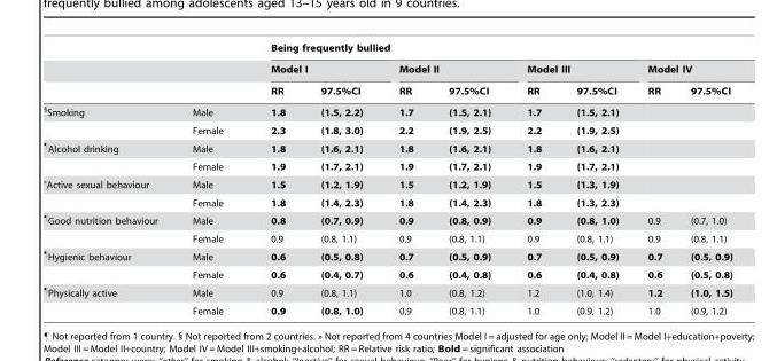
<table><thead><tr><td rowspan="3"></td><td rowspan="3"></td><td colspan="8">Being frequently bullied</td></tr><tr><td colspan="2">Model I</td><td colspan="2">Model II</td><td colspan="2">Model III</td><td colspan="2">Model IV</td></tr><tr><td>RR</td><td>97.5%CI</td><td>RR</td><td>97.5%CI</td><td>RR</td><td>97.5%CI</td><td>RR</td><td>97.5%CI</td></tr></thead><tbody><tr><td rowspan="2"><sup>§</sup>Smoking</td><td>Male</td><td>1.8</td><td>(1.5, 2.2)</td><td>1.7</td><td>(1.5, 2.1)</td><td>1.7</td><td>(1.5, 2.1)</td><td></td><td></td></tr><tr><td>Female</td><td>2.3</td><td>(1.8, 3.0)</td><td>2.2</td><td>(1.9, 2.5)</td><td>2.2</td><td>(1.9, 2.5)</td><td></td><td></td></tr><tr><td rowspan="2"><sup>¶</sup>Alcohol drinking</td><td>Male</td><td>1.8</td><td>(1.6, 2.1)</td><td>1.8</td><td>(1.6, 2.1)</td><td>1.8</td><td>(1.6, 2.1)</td><td></td><td></td></tr><tr><td>Female</td><td>1.9</td><td>(1.7, 2.1)</td><td>1.9</td><td>(1.7, 2.1)</td><td>1.9</td><td>(1.7, 2.1)</td><td></td><td></td></tr><tr><td rowspan="2"><sup>»</sup>Active sexual behaviour</td><td>Male</td><td>1.5</td><td>(1.2, 1.9)</td><td>1.5</td><td>(1.2, 1.9)</td><td>1.5</td><td>(1.3, 1.9)</td><td></td><td></td></tr><tr><td>Female</td><td>1.8</td><td>(1.4, 2.3)</td><td>1.8</td><td>(1.4, 2.3)</td><td>1.8</td><td>(1.3, 2.3)</td><td></td><td></td></tr><tr><td rowspan="2"><sup>¶</sup>Good nutrition behaviour</td><td>Male</td><td>0.8</td><td>(0.7, 0.9)</td><td>0.9</td><td>(0.8, 0.9)</td><td>0.9</td><td>(0.8, 1.0)</td><td>0.9</td><td>(0.7, 1.0)</td></tr><tr><td>Female</td><td>0.9</td><td>(0.8, 1.1)</td><td>0.9</td><td>(0.8, 1.1)</td><td>0.9</td><td>(0.8, 1.1)</td><td>0.9</td><td>(0.8, 1.1)</td></tr><tr><td rowspan="2"><sup>¶</sup>Hygienic behaviour</td><td>Male</td><td>0.6</td><td>(0.5, 0.8)</td><td>0.7</td><td>(0.5, 0.9)</td><td>0.7</td><td>(0.5, 0.9)</td><td>0.7</td><td>(0.5, 0.9)</td></tr><tr><td>Female</td><td>0.6</td><td>(0.4, 0.7)</td><td>0.6</td><td>(0.4, 0.8)</td><td>0.6</td><td>(0.4, 0.8)</td><td>0.6</td><td>(0.5, 0.8)</td></tr><tr><td rowspan="2"><sup>¶</sup>Physically active</td><td>Male</td><td>0.9</td><td>(0.8, 1.1)</td><td>1.0</td><td>(0.8, 1.2)</td><td>1.2</td><td>(1.0, 1.4)</td><td>1.2</td><td>(1.0, 1.5)</td></tr><tr><td>Female</td><td>0.9</td><td>(0.8, 1.0)</td><td>0.9</td><td>(0.8, 1.1)</td><td>1.0</td><td>(0.9, 1.2)</td><td>1.0</td><td>(0.9, 1.2)</td></tr></tbody></table>